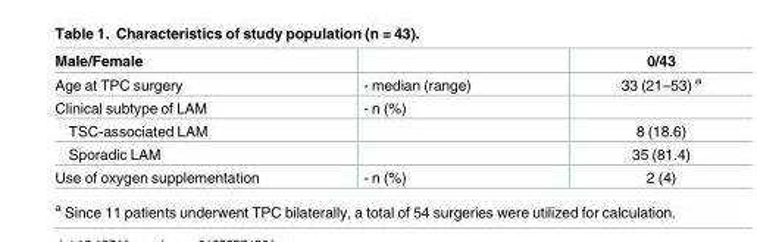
<table><thead><tr><td>Male/Female</td><td></td><td>0/43</td></tr></thead><tbody><tr><td>Age at TPC surgery</td><td>- median (range)</td><td>33 (21–53) <sup>a</sup></td></tr><tr><td>Clinical subtype of LAM</td><td>- n (%)</td><td></td></tr><tr><td>TSC-associated LAM</td><td></td><td>8 (18.6)</td></tr><tr><td>Sporadic LAM</td><td></td><td>35 (81.4)</td></tr><tr><td>Use of oxygen supplementation</td><td>- n (%)</td><td>2 (4)</td></tr></tbody></table>